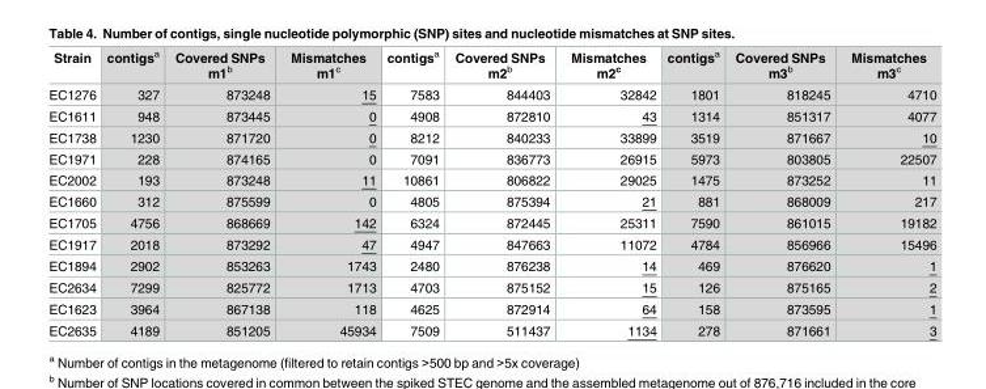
<table><thead><tr><td>Strain</td><td>contigs<sup>a</sup></td><td>Covered SNPs m1<sup>b</sup></td><td>Mismatches m1<sup>c</sup></td><td>contigs<sup>a</sup></td><td>Covered SNPs m2<sup>b</sup></td><td>Mismatches m2<sup>c</sup></td><td>contigs<sup>a</sup></td><td>Covered SNPs m3<sup>b</sup></td><td>Mismatches m3<sup>c</sup></td></tr></thead><tbody><tr><td>EC1276</td><td>327</td><td>873248</td><td>15</td><td>7583</td><td>844403</td><td>32842</td><td>1801</td><td>818245</td><td>4710</td></tr><tr><td>EC1611</td><td>948</td><td>873445</td><td>0</td><td>4908</td><td>872810</td><td>43</td><td>1314</td><td>851317</td><td>4077</td></tr><tr><td>EC1738</td><td>1230</td><td>871720</td><td>0</td><td>8212</td><td>840233</td><td>33899</td><td>3519</td><td>871667</td><td>10</td></tr><tr><td>EC1971</td><td>228</td><td>874165</td><td>0</td><td>7091</td><td>836773</td><td>26915</td><td>5973</td><td>803805</td><td>22507</td></tr><tr><td>EC2002</td><td>193</td><td>873248</td><td>11</td><td>10861</td><td>806822</td><td>29025</td><td>1475</td><td>873252</td><td>11</td></tr><tr><td>EC1660</td><td>312</td><td>875599</td><td>0</td><td>4805</td><td>875394</td><td>21</td><td>881</td><td>868009</td><td>217</td></tr><tr><td>EC1705</td><td>4756</td><td>868669</td><td>142</td><td>6324</td><td>872445</td><td>25311</td><td>7590</td><td>861015</td><td>19182</td></tr><tr><td>EC1917</td><td>2018</td><td>873292</td><td>47</td><td>4947</td><td>847663</td><td>11072</td><td>4784</td><td>856966</td><td>15496</td></tr><tr><td>EC1894</td><td>2902</td><td>853263</td><td>1743</td><td>2480</td><td>876238</td><td>14</td><td>469</td><td>876620</td><td>1</td></tr><tr><td>EC2634</td><td>7299</td><td>825772</td><td>1713</td><td>4703</td><td>875152</td><td>15</td><td>126</td><td>875165</td><td>2</td></tr><tr><td>EC1623</td><td>3964</td><td>867138</td><td>118</td><td>4625</td><td>872914</td><td>64</td><td>158</td><td>873595</td><td>1</td></tr><tr><td>EC2635</td><td>4189</td><td>851205</td><td>45934</td><td>7509</td><td>511437</td><td>1134</td><td>278</td><td>871661</td><td>3</td></tr></tbody></table>